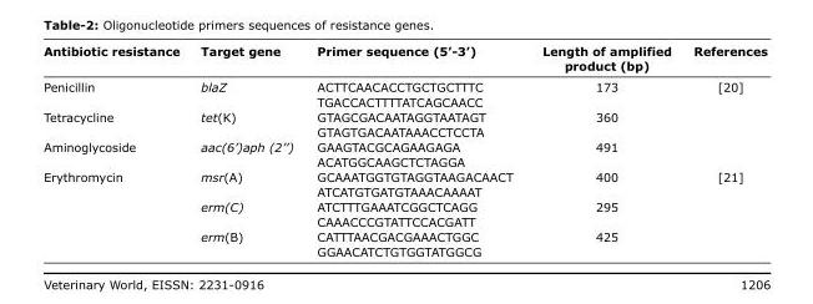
<table><thead><tr><td>Antibiotic resistance</td><td>Target gene</td><td>Primer sequence (5’-3’)</td><td>Length of amplified product (bp)</td><td>References</td></tr></thead><tbody><tr><td rowspan="2">Penicillin</td><td>blaZ</td><td>ACTTCAACACCTGCTGCTTTC</td><td>173</td><td>[20]</td></tr><tr><td></td><td>TGACCACTTTTATCAGCAACC</td><td></td><td></td></tr><tr><td rowspan="2">Tetracycline</td><td>tet(K)</td><td>GTAGCGACAATAGGTAATAGT</td><td>360</td><td></td></tr><tr><td></td><td>GTAGTGACAATAAACCTCCTA</td><td></td><td></td></tr><tr><td rowspan="2">Aminoglycoside</td><td>aac(6’)aph (2’’)</td><td>GAAGTACGCAGAAGAGA</td><td>491</td><td></td></tr><tr><td></td><td>ACATGGCAAGCTCTAGGA</td><td></td><td></td></tr><tr><td rowspan="6">Erythromycin</td><td>msr(A)</td><td>GCAAATGGTGTAGGTAAGACAACT</td><td>400</td><td>[21]</td></tr><tr><td></td><td>ATCATGTGATGTAAACAAAAT</td><td></td><td></td></tr><tr><td>erm(C)</td><td>ATCTTTGAAATCGGCTCAGG</td><td>295</td><td></td></tr><tr><td></td><td>CAAACCCGTATTCCACGATT</td><td></td><td></td></tr><tr><td>erm(B)</td><td>CATTTAACGACGAAACTGGC</td><td>425</td><td></td></tr><tr><td></td><td>GGAACATCTGTGGTATGGCG</td><td></td><td></td></tr></tbody></table>